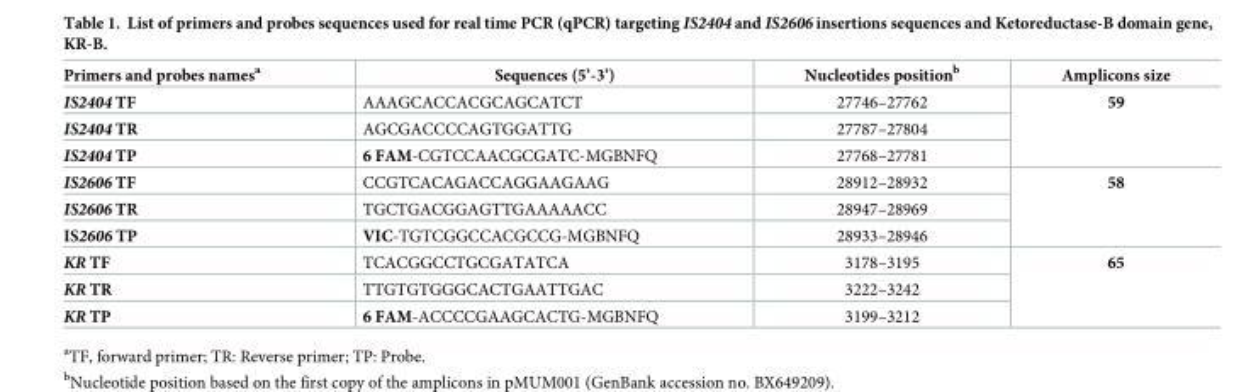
<table><thead><tr><td>Primers and probes names<sup>a</sup></td><td>Sequences (5’-3’)</td><td>Nucleotides position<sup>b</sup></td><td>Amplicons size</td></tr></thead><tbody><tr><td>IS2404 TF</td><td>AAAGCACCACGCAGCATCT</td><td>27746–27762</td><td rowspan="3">59</td></tr><tr><td>IS2404 TR</td><td>AGCGACCCCAGTGGATTG</td><td>27787–27804</td></tr><tr><td>IS2404 TP</td><td>6 FAM-CGTCCAACGCGATC-MGBNFQ</td><td>27768–27781</td></tr><tr><td>IS2606 TF</td><td>CCGTCACAGACCAGGAAGAAG</td><td>28912–28932</td><td rowspan="3">58</td></tr><tr><td>IS2606 TR</td><td>TGCTGACGGAGTTGAAAAACC</td><td>28947–28969</td></tr><tr><td>IS2606 TP</td><td>VIC-TGTCGGCCACGCCG-MGBNFQ</td><td>28933–28946</td></tr><tr><td>KR TF</td><td>TCACGGCCTGCGATATCA</td><td>3178–3195</td><td rowspan="3">65</td></tr><tr><td>KR TR</td><td>TTGTGTGGGCACTGAATTGAC</td><td>3222–3242</td></tr><tr><td>KR TP</td><td>6 FAM-ACCCCGAAGCACTG-MGBNFQ</td><td>3199–3212</td></tr></tbody></table>